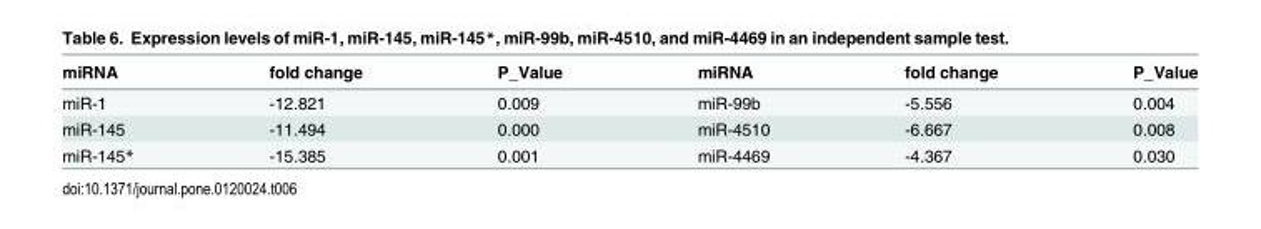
<table><thead><tr><td>miRNA</td><td>fold change</td><td>P_Value</td><td>miRNA</td><td>fold change</td><td>P_Value</td></tr></thead><tbody><tr><td>miR-1</td><td>-12.821</td><td>0.009</td><td>miR-99b</td><td>-5.556</td><td>0.004</td></tr><tr><td>miR-145</td><td>-11.494</td><td>0.000</td><td>miR-4510</td><td>-6.667</td><td>0.008</td></tr><tr><td>miR-145*</td><td>-15.385</td><td>0.001</td><td>miR-4469</td><td>-4.367</td><td>0.030</td></tr></tbody></table>